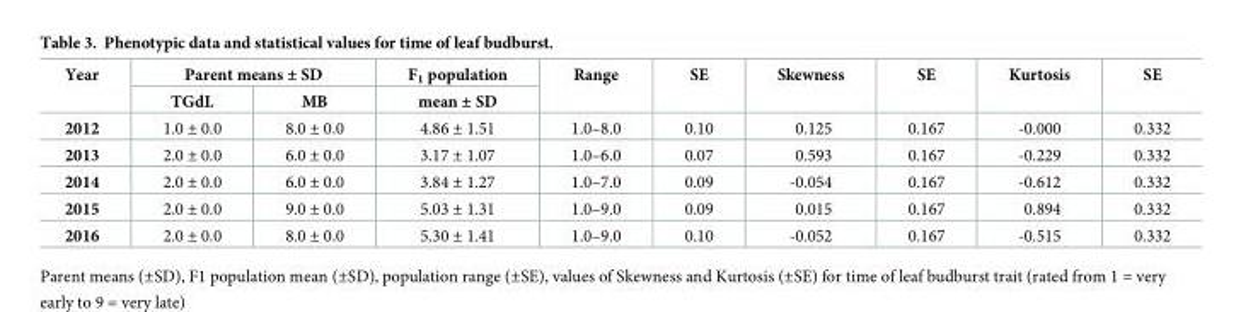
<table><thead><tr><td rowspan="2">Year</td><td colspan="2">Parent means ± SD</td><td rowspan="2">F<sub>1</sub> population mean ± SD</td><td rowspan="2">Range</td><td rowspan="2">SE</td><td rowspan="2">Skewness</td><td rowspan="2">SE</td><td rowspan="2">Kurtosis</td><td rowspan="2">SE</td></tr><tr><td>TGdL</td><td>MB</td></tr></thead><tbody><tr><td>2012</td><td>1.0 ± 0.0</td><td>8.0 ± 0.0</td><td>4.86 ± 1.51</td><td>1.0–8.0</td><td>0.10</td><td>0.125</td><td>0.167</td><td>-0.000</td><td>0.332</td></tr><tr><td>2013</td><td>2.0 ± 0.0</td><td>6.0 ± 0.0</td><td>3.17 ± 1.07</td><td>1.0–6.0</td><td>0.07</td><td>0.593</td><td>0.167</td><td>-0.229</td><td>0.332</td></tr><tr><td>2014</td><td>2.0 ± 0.0</td><td>6.0 ± 0.0</td><td>3.84 ± 1.27</td><td>1.0–7.0</td><td>0.09</td><td>-0.054</td><td>0.167</td><td>-0.612</td><td>0.332</td></tr><tr><td>2015</td><td>2.0 ± 0.0</td><td>9.0 ± 0.0</td><td>5.03 ± 1.31</td><td>1.0–9.0</td><td>0.09</td><td>0.015</td><td>0.167</td><td>0.894</td><td>0.332</td></tr><tr><td>2016</td><td>2.0 ± 0.0</td><td>8.0 ± 0.0</td><td>5.30 ± 1.41</td><td>1.0–9.0</td><td>0.10</td><td>-0.052</td><td>0.167</td><td>-0.515</td><td>0.332</td></tr></tbody></table>